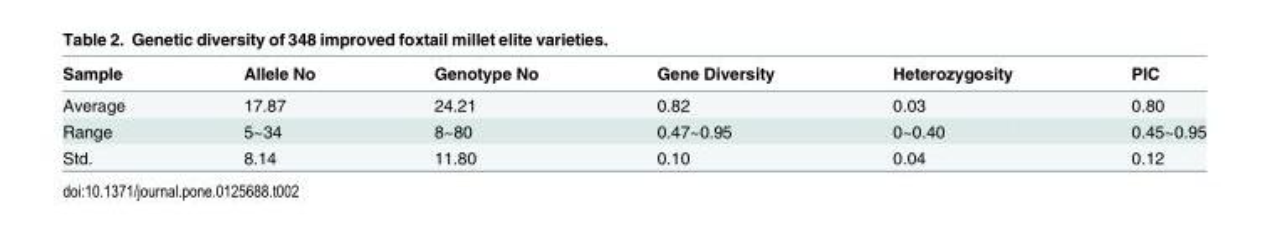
<table><thead><tr><td>Sample</td><td>Allele No</td><td>Genotype No</td><td>Gene Diversity</td><td>Heterozygosity</td><td>PIC</td></tr></thead><tbody><tr><td>Average</td><td>17.87</td><td>24.21</td><td>0.82</td><td>0.03</td><td>0.80</td></tr><tr><td>Range</td><td>5~34</td><td>8~80</td><td>0.47~0.95</td><td>0~0.40</td><td>0.45~0.95</td></tr><tr><td>Std.</td><td>8.14</td><td>11.80</td><td>0.10</td><td>0.04</td><td>0.12</td></tr></tbody></table>